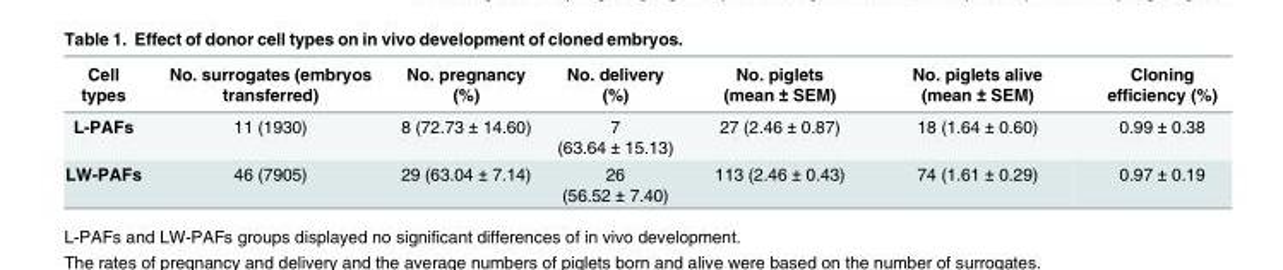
<table><thead><tr><td>Cell types</td><td>No. surrogates (embryos transferred)</td><td>No. pregnancy (%)</td><td>No. delivery (%)</td><td>No. piglets (mean ± SEM)</td><td>No. piglets alive (mean ± SEM)</td><td>Cloning efficiency (%)</td></tr></thead><tbody><tr><td>L-PAFs</td><td>11 (1930)</td><td>8 (72.73 ± 14.60)</td><td>7 (63.64 ± 15.13)</td><td>27 (2.46 ± 0.87)</td><td>18 (1.64 ± 0.60)</td><td>0.99 ± 0.38</td></tr><tr><td>LW-PAFs</td><td>46 (7905)</td><td>29 (63.04 ± 7.14)</td><td>26 (56.52 ± 7.40)</td><td>113 (2.46 ± 0.43)</td><td>74 (1.61 ± 0.29)</td><td>0.97 ± 0.19</td></tr></tbody></table>